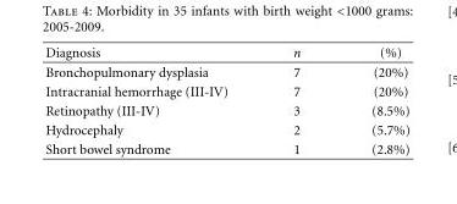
<table><thead><tr><td>Diagnosis</td><td>n</td><td>(%)</td></tr></thead><tbody><tr><td>Bronchopulmonary dysplasia</td><td>7</td><td>(20%)</td></tr><tr><td>Intracranial hemorrhage (III-IV)</td><td>7</td><td>(20%)</td></tr><tr><td>Retinopathy (III-IV)</td><td>3</td><td>(8.5%)</td></tr><tr><td>Hydrocephaly</td><td>2</td><td>(5.7%)</td></tr><tr><td>Short bowel syndrome</td><td>1</td><td>(2.8%)</td></tr></tbody></table>